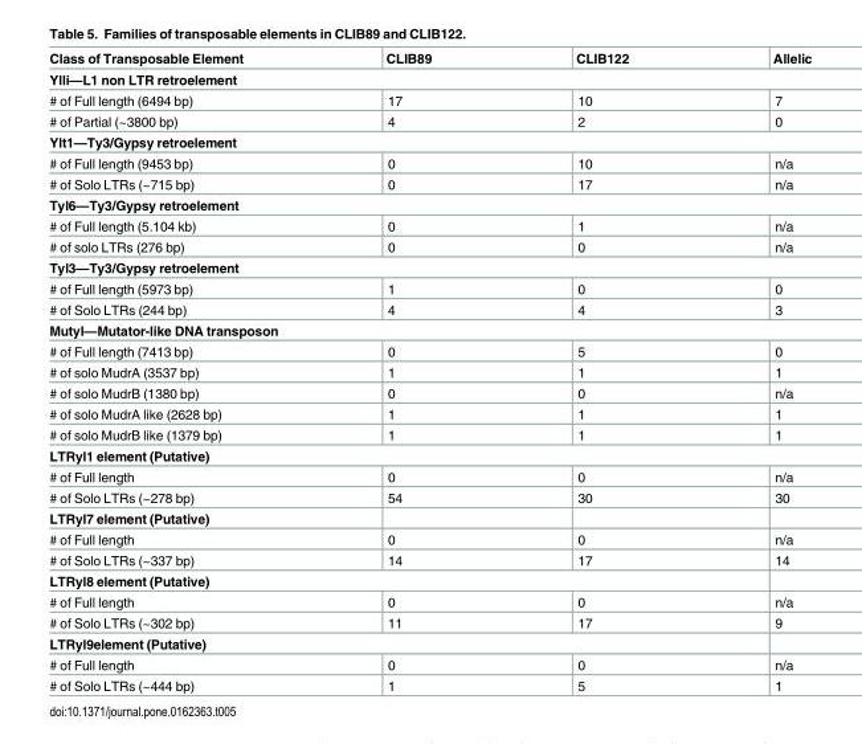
<table><thead><tr><td>Class of Transposable Element</td><td>CLIB89</td><td>CLIB122</td><td>Allelic</td></tr></thead><tbody><tr><td colspan="4">Ylli—L1 non LTR retroelement</td></tr><tr><td># of Full length (6494 bp)</td><td>17</td><td>10</td><td>7</td></tr><tr><td># of Partial (~3800 bp)</td><td>4</td><td>2</td><td>0</td></tr><tr><td colspan="4">Ylt1—Ty3/Gypsy retroelement</td></tr><tr><td># of Full length (9453 bp)</td><td>0</td><td>10</td><td>n/a</td></tr><tr><td># of Solo LTRs (~715 bp)</td><td>0</td><td>17</td><td>n/a</td></tr><tr><td colspan="4">Tyl6—Ty3/Gypsy retroelement</td></tr><tr><td># of Full length (5.104 kb)</td><td>0</td><td>1</td><td>n/a</td></tr><tr><td># of solo LTRs (276 bp)</td><td>0</td><td>0</td><td>n/a</td></tr><tr><td colspan="4">Tyl3—Ty3/Gypsy retroelement</td></tr><tr><td># of Full length (5973 bp)</td><td>1</td><td>0</td><td>0</td></tr><tr><td># of Solo LTRs (244 bp)</td><td>4</td><td>4</td><td>3</td></tr><tr><td colspan="4">Mutyl—Mutator-like DNA transposon</td></tr><tr><td># of Full length (7413 bp)</td><td>0</td><td>5</td><td>0</td></tr><tr><td># of solo MudrA (3537 bp)</td><td>1</td><td>1</td><td>1</td></tr><tr><td># of solo MudrB (1380 bp)</td><td>0</td><td>0</td><td>n/a</td></tr><tr><td># of solo MudrA like (2628 bp)</td><td>1</td><td>1</td><td>1</td></tr><tr><td># of solo MudrB like (1379 bp)</td><td>1</td><td>1</td><td>1</td></tr><tr><td colspan="4">LTRyl1 element (Putative)</td></tr><tr><td># of Full length</td><td>0</td><td>0</td><td>n/a</td></tr><tr><td># of Solo LTRs (~278 bp)</td><td>54</td><td>30</td><td>30</td></tr><tr><td colspan="4">LTRyl7 element (Putative)</td></tr><tr><td># of Full length</td><td>0</td><td>0</td><td>n/a</td></tr><tr><td># of Solo LTRs (~337 bp)</td><td>14</td><td>17</td><td>14</td></tr><tr><td colspan="4">LTRyl8 element (Putative)</td></tr><tr><td># of Full length</td><td>0</td><td>0</td><td>n/a</td></tr><tr><td># of Solo LTRs (~302 bp)</td><td>11</td><td>17</td><td>9</td></tr><tr><td colspan="4">LTRyl9element (Putative)</td></tr><tr><td># of Full length</td><td>0</td><td>0</td><td>n/a</td></tr><tr><td># of Solo LTRs (~444 bp)</td><td>1</td><td>5</td><td>1</td></tr></tbody></table>